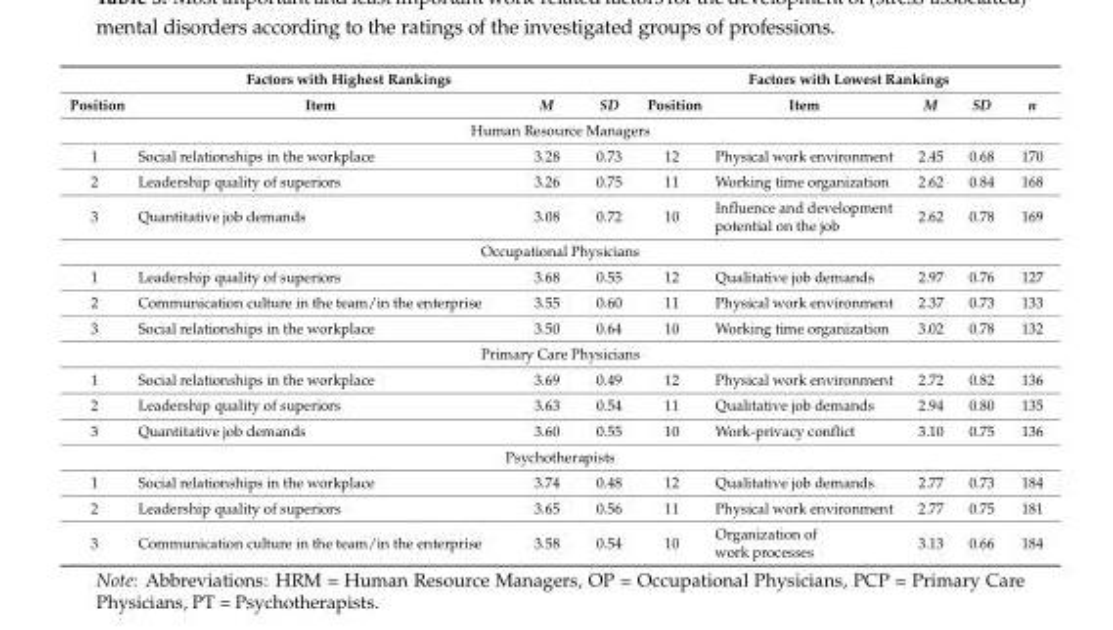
<table><thead><tr><td colspan="4">Factors with Highest Rankings</td><td colspan="5">Factors with Lowest Rankings</td></tr><tr><td>Position</td><td>Item</td><td>M</td><td>SD</td><td>Position</td><td>Item</td><td>M</td><td>SD</td><td>n</td></tr></thead><tbody><tr><td colspan="9">Human Resource Managers</td></tr><tr><td>1</td><td>Social relationships in the workplace</td><td>3.28</td><td>0.73</td><td>12</td><td>Physical work environment</td><td>2.45</td><td>0.68</td><td>170</td></tr><tr><td>2</td><td>Leadership quality of superiors</td><td>3.26</td><td>0.75</td><td>11</td><td>Working time organization</td><td>2.62</td><td>0.84</td><td>168</td></tr><tr><td>3</td><td>Quantitative job demands</td><td>3.08</td><td>0.72</td><td>10</td><td>Influence and development potential on the job</td><td>2.62</td><td>0.78</td><td>169</td></tr><tr><td colspan="9">Occupational Physicians</td></tr><tr><td>1</td><td>Leadership quality of superiors</td><td>3.68</td><td>0.55</td><td>12</td><td>Qualitative job demands</td><td>2.97</td><td>0.76</td><td>127</td></tr><tr><td>2</td><td>Communication culture in the team/in the enterprise</td><td>3.55</td><td>0.60</td><td>11</td><td>Physical work environment</td><td>2.37</td><td>0.73</td><td>133</td></tr><tr><td>3</td><td>Social relationships in the workplace</td><td>3.50</td><td>0.64</td><td>10</td><td>Working time organization</td><td>3.02</td><td>0.78</td><td>132</td></tr><tr><td colspan="9">Primary Care Physicians</td></tr><tr><td>1</td><td>Social relationships in the workplace</td><td>3.69</td><td>0.49</td><td>12</td><td>Physical work environment</td><td>2.72</td><td>0.82</td><td>136</td></tr><tr><td>2</td><td>Leadership quality of superiors</td><td>3.63</td><td>0.54</td><td>11</td><td>Qualitative job demands</td><td>2.94</td><td>0.80</td><td>135</td></tr><tr><td>3</td><td>Quantitative job demands</td><td>3.60</td><td>0.55</td><td>10</td><td>Work-privacy conflict</td><td>3.10</td><td>0.75</td><td>136</td></tr><tr><td colspan="9">Psychotherapists</td></tr><tr><td>1</td><td>Social relationships in the workplace</td><td>3.74</td><td>0.48</td><td>12</td><td>Qualitative job demands</td><td>2.77</td><td>0.73</td><td>184</td></tr><tr><td>2</td><td>Leadership quality of superiors</td><td>3.65</td><td>0.56</td><td>11</td><td>Physical work environment</td><td>2.77</td><td>0.75</td><td>181</td></tr><tr><td>3</td><td>Communication culture in the team/in the enterprise</td><td>3.58</td><td>0.54</td><td>10</td><td>Organization of work processes</td><td>3.13</td><td>0.66</td><td>184</td></tr></tbody></table>